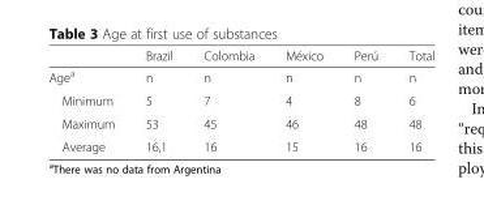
<table><thead><tr><td></td><td>Brazil</td><td>Colombia</td><td>México</td><td>Perú</td><td>Total</td></tr></thead><tbody><tr><td>Age<sup>a</sup></td><td>n</td><td>n</td><td>n</td><td>n</td><td>n</td></tr><tr><td>Minimum</td><td>5</td><td>7</td><td>4</td><td>8</td><td>6</td></tr><tr><td>Maximum</td><td>53</td><td>45</td><td>46</td><td>48</td><td>48</td></tr><tr><td>Average</td><td>16,1</td><td>16</td><td>15</td><td>16</td><td>16</td></tr></tbody></table>